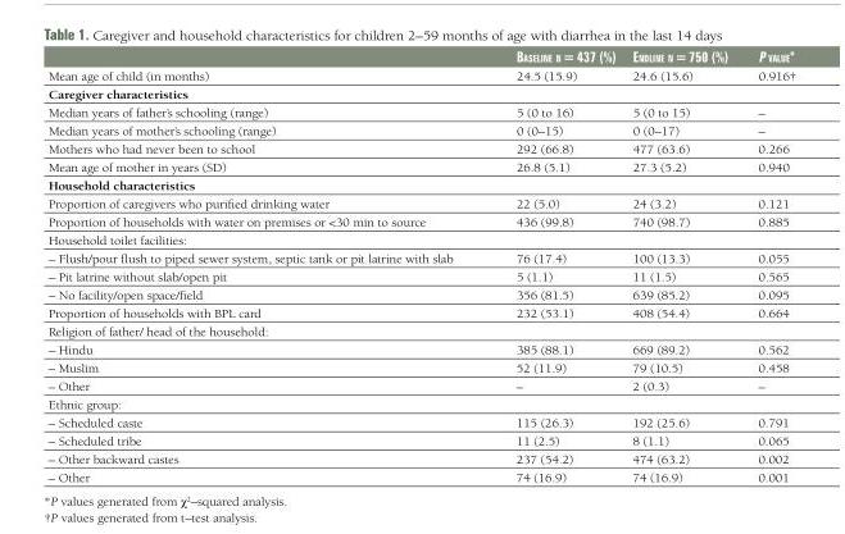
<table><thead><tr><td></td><td>Baseline n = 437 (%)</td><td>endline n = 750 (%)</td><td>P value*</td></tr></thead><tbody><tr><td>Mean age of child (in months)</td><td>24.5 (15.9)</td><td>24.6 (15.6)</td><td>0.916†</td></tr><tr><td colspan="4">Caregiver characteristics</td></tr><tr><td>Median years of father’s schooling (range)</td><td>5 (0 to 16)</td><td>5 (0 to 15)</td><td>–</td></tr><tr><td>Median years of mother’s schooling (range)</td><td>0 (0–15)</td><td>0 (0–17)</td><td>–</td></tr><tr><td>Mothers who had never been to school</td><td>292 (66.8)</td><td>477 (63.6)</td><td>0.266</td></tr><tr><td>Mean age of mother in years (SD)</td><td>26.8 (5.1)</td><td>27.3 (5.2)</td><td>0.940</td></tr><tr><td colspan="4">Household characteristics</td></tr><tr><td>Proportion of caregivers who purified drinking water</td><td>22 (5.0)</td><td>24 (3.2)</td><td>0.121</td></tr><tr><td>Proportion of households with water on premises or &lt;30 min to source</td><td>436 (99.8)</td><td>740 (98.7)</td><td>0.885</td></tr><tr><td colspan="4">Household toilet facilities:</td></tr><tr><td>– Flush/pour flush to piped sewer system, septic tank or pit latrine with slab</td><td>76 (17.4)</td><td>100 (13.3)</td><td>0.055</td></tr><tr><td>– Pit latrine without slab/open pit</td><td>5 (1.1)</td><td>11 (1.5)</td><td>0.565</td></tr><tr><td>– No facility/open space/field</td><td>356 (81.5)</td><td>639 (85.2)</td><td>0.095</td></tr><tr><td>Proportion of households with BPL card</td><td>232 (53.1)</td><td>408 (54.4)</td><td>0.664</td></tr><tr><td colspan="4">Religion of father/ head of the household:</td></tr><tr><td>– Hindu</td><td>385 (88.1)</td><td>669 (89.2)</td><td>0.562</td></tr><tr><td>– Muslim</td><td>52 (11.9)</td><td>79 (10.5)</td><td>0.458</td></tr><tr><td>– Other</td><td>–</td><td>2 (0.3)</td><td>–</td></tr><tr><td colspan="4">Ethnic group:</td></tr><tr><td>– Scheduled caste</td><td>115 (26.3)</td><td>192 (25.6)</td><td>0.791</td></tr><tr><td>– Scheduled tribe</td><td>11 (2.5)</td><td>8 (1.1)</td><td>0.065</td></tr><tr><td>– Other backward castes</td><td>237 (54.2)</td><td>474 (63.2)</td><td>0.002</td></tr><tr><td>– Other</td><td>74 (16.9)</td><td>74 (16.9)</td><td>0.001</td></tr></tbody></table>